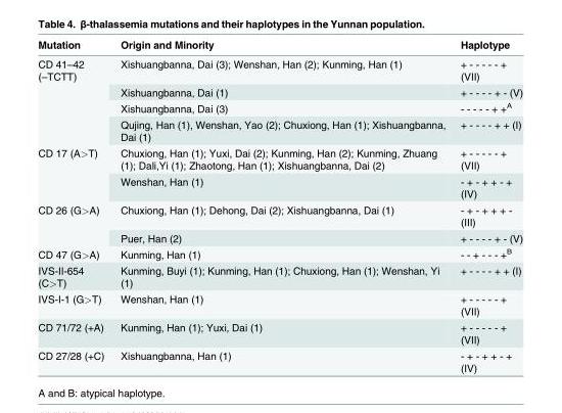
<table><thead><tr><td>Mutation</td><td>Origin and Minority</td><td>Haplotype</td></tr></thead><tbody><tr><td rowspan="4">CD 41–42 (–TCTT)</td><td>Xishuangbanna, Dai (3); Wenshan, Han (2); Kunming, Han (1)</td><td>+ - - - - - + (VII)</td></tr><tr><td>Xishuangbanna, Dai (1)</td><td>+ - - - - + - (V)</td></tr><tr><td>Xishuangbanna, Dai (3)</td><td>- - - - - + +<sup>A</sup></td></tr><tr><td>Qujing, Han (1), Wenshan, Yao (2); Chuxiong, Han (1); Xishuangbanna, Dai (1)</td><td>+ - - - - + + (I)</td></tr><tr><td rowspan="2">CD 17 (A&gt;T)</td><td>Chuxiong, Han (1); Yuxi, Dai (2); Kunming, Han (2); Kunming, Zhuang (1); Dali,Yi (1); Zhaotong, Han (1); Xishuangbanna, Dai (2)</td><td>+ - - - - - + (VII)</td></tr><tr><td>Wenshan, Han (1)</td><td>- + - + + - + (IV)</td></tr><tr><td rowspan="2">CD 26 (G&gt;A)</td><td>Chuxiong, Han (1); Dehong, Dai (2); Xishuangbanna, Dai (1)</td><td>- + - + + + - (III)</td></tr><tr><td>Puer, Han (2)</td><td>+ - - - - + - (V)</td></tr><tr><td>CD 47 (G&gt;A)</td><td>Kunming, Han (1)</td><td>- - + - - - +<sup>B</sup></td></tr><tr><td>IVS-II-654 (C&gt;T)</td><td>Kunming, Buyi (1); Kunming, Han (1); Chuxiong, Han (1); Wenshan, Yi (1)</td><td>+ - - - - + + (I)</td></tr><tr><td>IVS-I-1 (G&gt;T)</td><td>Wenshan, Han (1)</td><td>+ - - - - - + (VII)</td></tr><tr><td>CD 71/72 (+A)</td><td>Kunming, Han (1); Yuxi, Dai (1)</td><td>+ - - - - - + (VII)</td></tr><tr><td>CD 27/28 (+C)</td><td>Xishuangbanna, Han (1)</td><td>- + - + + - + (IV)</td></tr></tbody></table>